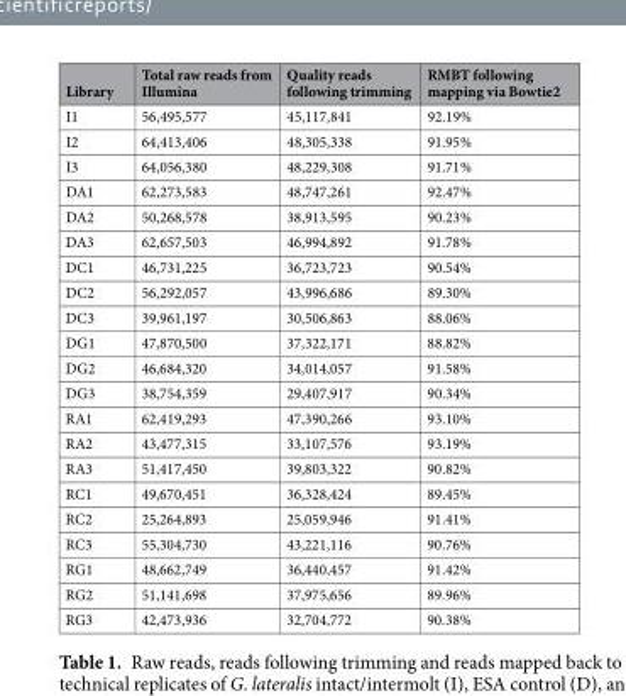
<table><thead><tr><td>Library</td><td>Total raw reads from Illumina</td><td>Quality reads following trimming</td><td>RMBT following mapping via Bowtie2</td></tr></thead><tbody><tr><td>I1</td><td>56,495,577</td><td>45,117,841</td><td>92.19%</td></tr><tr><td>I2</td><td>64,413,406</td><td>48,305,338</td><td>91.95%</td></tr><tr><td>I3</td><td>64,056,380</td><td>48,229,308</td><td>91.71%</td></tr><tr><td>DA1</td><td>62,273,583</td><td>48,747,261</td><td>92.47%</td></tr><tr><td>DA2</td><td>50,268,578</td><td>38,913,595</td><td>90.23%</td></tr><tr><td>DA3</td><td>62,657,503</td><td>46,994,892</td><td>91.78%</td></tr><tr><td>DC1</td><td>46,731,225</td><td>36,723,723</td><td>90.54%</td></tr><tr><td>DC2</td><td>56,292,057</td><td>43,996,686</td><td>89.30%</td></tr><tr><td>DC3</td><td>39,961,197</td><td>30,506,863</td><td>88.06%</td></tr><tr><td>DG1</td><td>47,870,500</td><td>37,322,171</td><td>88.82%</td></tr><tr><td>DG2</td><td>46,684,320</td><td>34,014,057</td><td>91.58%</td></tr><tr><td>DG3</td><td>38,754,359</td><td>29,407,917</td><td>90.34%</td></tr><tr><td>RA1</td><td>62,419,293</td><td>47,390,266</td><td>93.10%</td></tr><tr><td>RA2</td><td>43,477,315</td><td>33,107,576</td><td>93.19%</td></tr><tr><td>RA3</td><td>51,417,450</td><td>39,803,322</td><td>90.82%</td></tr><tr><td>RC1</td><td>49,670,451</td><td>36,328,424</td><td>89.45%</td></tr><tr><td>RC2</td><td>25,264,893</td><td>25,059,946</td><td>91.41%</td></tr><tr><td>RC3</td><td>55,304,730</td><td>43,221,116</td><td>90.76%</td></tr><tr><td>RG1</td><td>48,662,749</td><td>36,440,457</td><td>91.42%</td></tr><tr><td>RG2</td><td>51,141,698</td><td>37,975,656</td><td>89.96%</td></tr><tr><td>RG3</td><td>42,473,936</td><td>32,704,772</td><td>90.38%</td></tr></tbody></table>